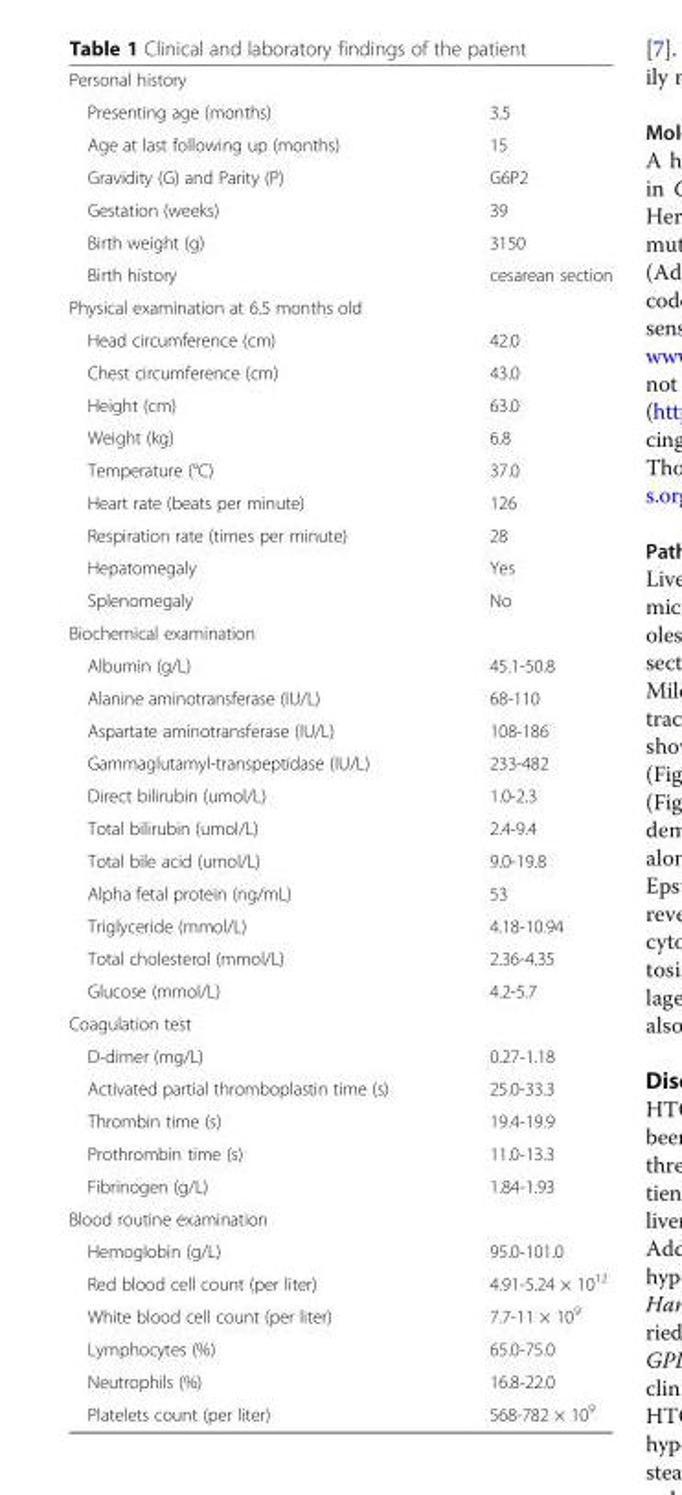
<table><tbody><tr><td colspan="2">Personal history</td></tr><tr><td>Presenting age (months)</td><td>3.5</td></tr><tr><td>Age at last following up (months)</td><td>15</td></tr><tr><td>Gravidity (G) and Parity (P)</td><td>G6P2</td></tr><tr><td>Gestation (weeks)</td><td>39</td></tr><tr><td>Birth weight (g)</td><td>3150</td></tr><tr><td>Birth history</td><td>cesarean section</td></tr><tr><td colspan="2">Physical examination at 6.5 months old</td></tr><tr><td>Head circumference (cm)</td><td>42.0</td></tr><tr><td>Chest circumference (cm)</td><td>43.0</td></tr><tr><td>Height (cm)</td><td>63.0</td></tr><tr><td>Weight (kg)</td><td>6.8</td></tr><tr><td>Temperature (°C)</td><td>37.0</td></tr><tr><td>Heart rate (beats per minute)</td><td>126</td></tr><tr><td>Respiration rate (times per minute)</td><td>28</td></tr><tr><td>Hepatomegaly</td><td>Yes</td></tr><tr><td>Splenomegaly</td><td>No</td></tr><tr><td colspan="2">Biochemical examination</td></tr><tr><td>Albumin (g/L)</td><td>45.1-50.8</td></tr><tr><td>Alanine aminotransferase (IU/L)</td><td>68-110</td></tr><tr><td>Aspartate aminotransferase (IU/L)</td><td>108-186</td></tr><tr><td>Gammaglutamyl-transpeptidase (IU/L)</td><td>233-482</td></tr><tr><td>Direct bilirubin (umol/L)</td><td>1.0-2.3</td></tr><tr><td>Total bilirubin (umol/L)</td><td>2.4-9.4</td></tr><tr><td>Total bile acid (umol/L)</td><td>9.0-19.8</td></tr><tr><td>Alpha fetal protein (ng/mL)</td><td>53</td></tr><tr><td>Triglyceride (mmol/L)</td><td>4.18-10.94</td></tr><tr><td>Total cholesterol (mmol/L)</td><td>2.36-4.35</td></tr><tr><td>Glucose (mmol/L)</td><td>4.2-5.7</td></tr><tr><td colspan="2">Coagulation test</td></tr><tr><td>D-dimer (mg/L)</td><td>0.27-1.18</td></tr><tr><td>Activated partial thromboplastin time (s)</td><td>25.0-33.3</td></tr><tr><td>Thrombin time (s)</td><td>19.4-19.9</td></tr><tr><td>Prothrombin time (s)</td><td>11.0-13.3</td></tr><tr><td>Fibrinogen (g/L)</td><td>1.84-1.93</td></tr><tr><td colspan="2">Blood routine examination</td></tr><tr><td>Hemoglobin (g/L)</td><td>95.0-101.0</td></tr><tr><td>Red blood cell count (per liter)</td><td>4.91-5.24 × 10<sup>12</sup></td></tr><tr><td>White blood cell count (per liter)</td><td>7.7-11 × 10<sup>9</sup></td></tr><tr><td>Lymphocytes (%)</td><td>65.0-75.0</td></tr><tr><td>Neutrophils (%)</td><td>16.8-22.0</td></tr><tr><td>Platelets count (per liter)</td><td>568-782 × 10<sup>9</sup></td></tr></tbody></table>